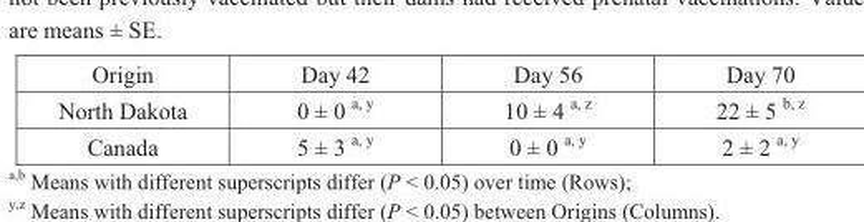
<table><tbody><tr><td>Origin</td><td>Day 42</td><td>Day 56</td><td>Day 70</td></tr><tr><td>North Dakota</td><td>0 ± 0 <sup>a, y</sup></td><td>10 ± 4 <sup>a, z</sup></td><td>22 ± 5 <sup>b, z</sup></td></tr><tr><td>Canada</td><td>5 ± 3 <sup>a, y</sup></td><td>0 ± 0 <sup>a, y</sup></td><td>2 ± 2 <sup>a, y</sup></td></tr></tbody></table>